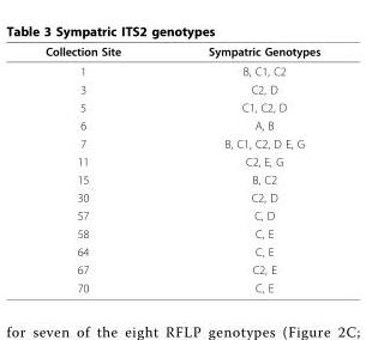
<table><thead><tr><td>Collection Site</td><td>Sympatric Genotypes</td></tr></thead><tbody><tr><td>1</td><td>B, C1, C2</td></tr><tr><td>3</td><td>C2, D</td></tr><tr><td>5</td><td>C1, C2, D</td></tr><tr><td>6</td><td>A, B</td></tr><tr><td>7</td><td>B, C1, C2, D E, G</td></tr><tr><td>11</td><td>C2, E, G</td></tr><tr><td>15</td><td>B, C2</td></tr><tr><td>30</td><td>C2, D</td></tr><tr><td>57</td><td>C, D</td></tr><tr><td>58</td><td>C, E</td></tr><tr><td>64</td><td>C, E</td></tr><tr><td>67</td><td>C2, E</td></tr><tr><td>70</td><td>C, E</td></tr></tbody></table>